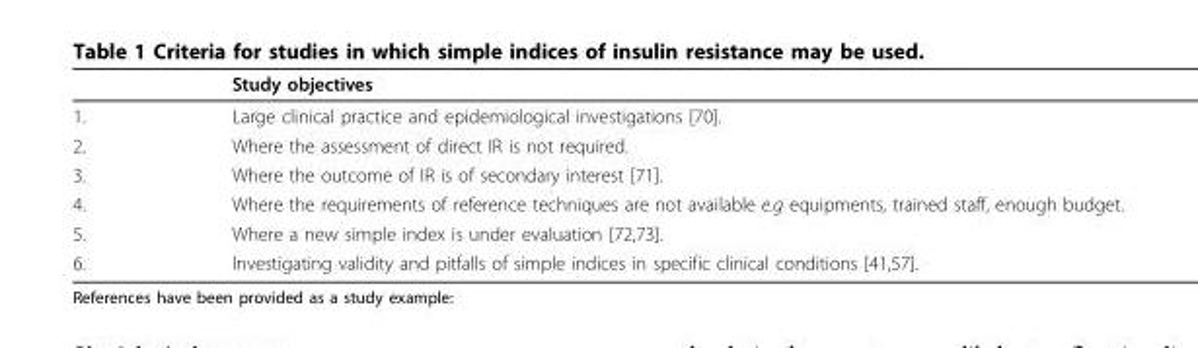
<table><thead><tr><td></td><td>Study objectives</td></tr></thead><tbody><tr><td>1.</td><td>Large clinical practice and epidemiological investigations [70].</td></tr><tr><td>2.</td><td>Where the assessment of direct IR is not required.</td></tr><tr><td>3.</td><td>Where the outcome of IR is of secondary interest [71].</td></tr><tr><td>4.</td><td>Where the requirements of reference techniques are not available e.g equipments, trained staff, enough budget.</td></tr><tr><td>5.</td><td>Where a new simple index is under evaluation [72,73].</td></tr><tr><td>6.</td><td>Investigating validity and pitfalls of simple indices in specific clinical conditions [41,57].</td></tr></tbody></table>